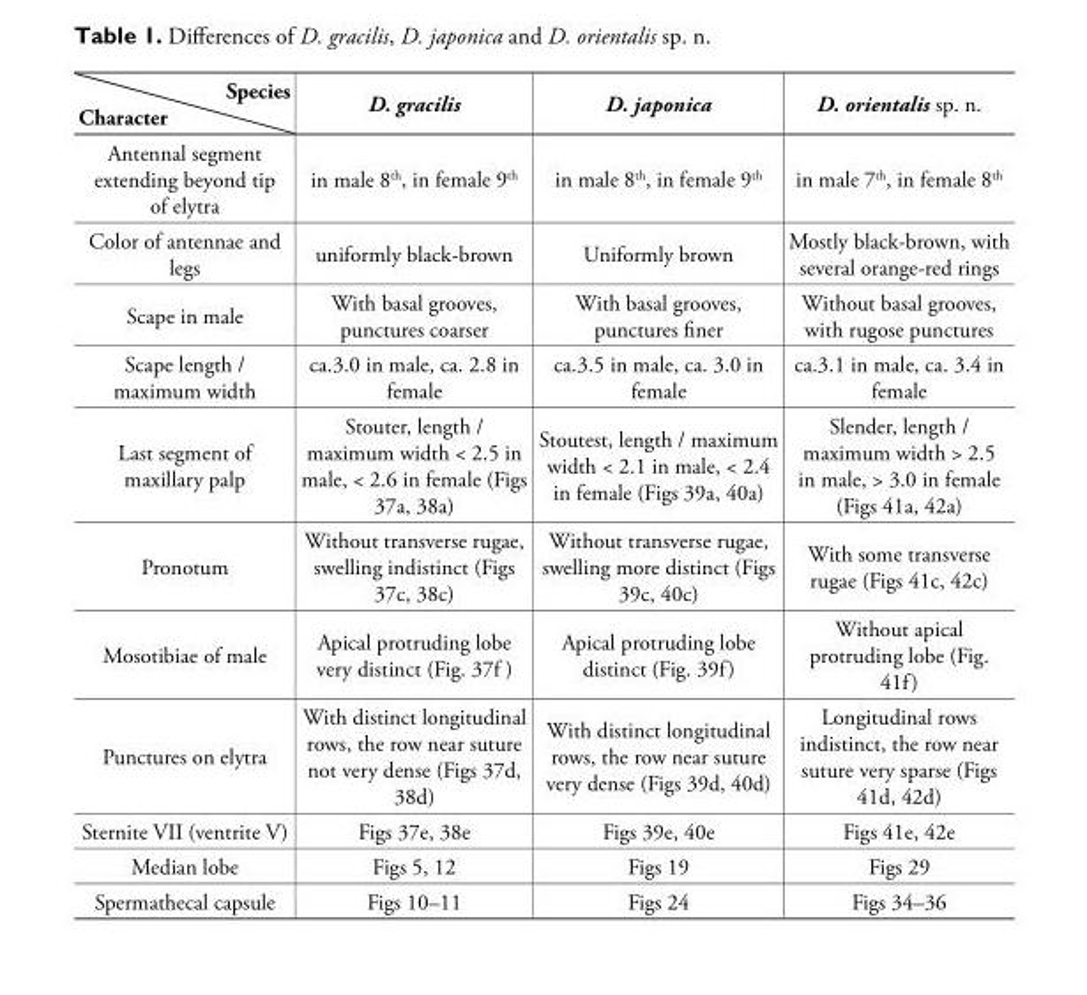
<table><thead><tr><td>Species Character</td><td>D. gracilis</td><td>D. japonica</td><td>D. orientalis sp. n.</td></tr></thead><tbody><tr><td>Antennal segment extending beyond tip of elytra</td><td>in male 8<sup>th</sup>, in female 9<sup>th</sup></td><td>in male 8<sup>th</sup>, in female 9<sup>th</sup></td><td>in male 7<sup>th</sup>, in female 8<sup>th</sup></td></tr><tr><td>Color of antennae and legs</td><td>uniformly black-brown</td><td>Uniformly brown</td><td>Mostly black-brown, with several orange-red rings</td></tr><tr><td>Scape in male</td><td>With basal grooves, punctures coarser</td><td>With basal grooves, punctures finer</td><td>Without basal grooves, with rugose punctures</td></tr><tr><td>Scape length / maximum width</td><td>ca.3.0 in male, ca. 2.8 in female</td><td>ca.3.5 in male, ca. 3.0 in female</td><td>ca.3.1 in male, ca. 3.4 in female</td></tr><tr><td>Last segment of maxillary palp</td><td>Stouter, length / maximum width &lt; 2.5 in male, &lt; 2.6 in female (Figs 37a, 38a)</td><td>Stoutest, length / maximum width &lt; 2.1 in male, &lt; 2.4 in female (Figs 39a, 40a)</td><td>Slender, length / maximum width &gt; 2.5 in male, &gt; 3.0 in female (Figs 41a, 42a)</td></tr><tr><td>Pronotum</td><td>Without transverse rugae, swelling indistinct (Figs 37c, 38c)</td><td>Without transverse rugae, swelling more distinct (Figs 39c, 40c)</td><td>With some transverse rugae (Figs 41c, 42c)</td></tr><tr><td>Mosotibiae of male</td><td>Apical protruding lobe very distinct (Fig. 37f )</td><td>Apical protruding lobe distinct (Fig. 39f)</td><td>Without apical protruding lobe (Fig. 41f)</td></tr><tr><td>Punctures on elytra</td><td>With distinct longitudinal rows, the row near suture not very dense (Figs 37d, 38d)</td><td>With distinct longitudinal rows, the row near suture very dense (Figs 39d, 40d)</td><td>Longitudinal rows indistinct, the row near suture very sparse (Figs 41d, 42d)</td></tr><tr><td>Sternite VII (ventrite V)</td><td>Figs 37e, 38e</td><td>Figs 39e, 40e</td><td>Figs 41e, 42e</td></tr><tr><td>Median lobe</td><td>Figs 5, 12</td><td>Figs 19</td><td>Figs 29</td></tr><tr><td>Spermathecal capsule</td><td>Figs 10–11</td><td>Figs 24</td><td>Figs 34–36</td></tr></tbody></table>